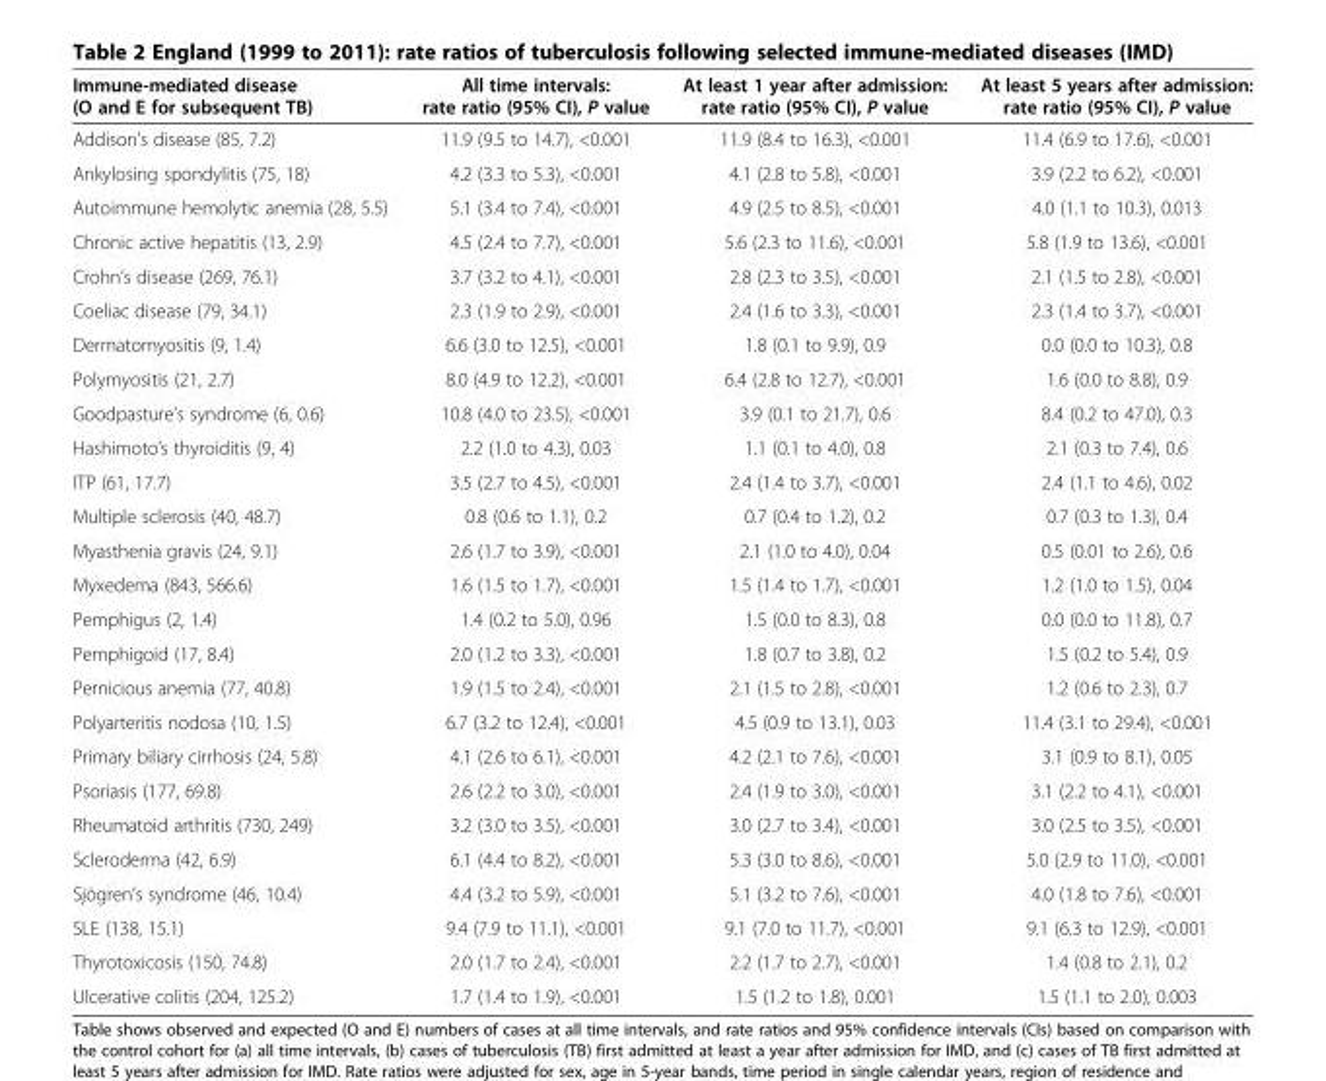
<table><thead><tr><td>Immune-mediated disease (O and E for subsequent TB)</td><td>All time intervals: rate ratio (95% CI), P value</td><td>At least 1 year after admission: rate ratio (95% CI), P value</td><td>At least 5 years after admission: rate ratio (95% CI), P value</td></tr></thead><tbody><tr><td>Addison’s disease (85, 7.2)</td><td>11.9 (9.5 to 14.7), &lt;0.001</td><td>11.9 (8.4 to 16.3), &lt;0.001</td><td>11.4 (6.9 to 17.6), &lt;0.001</td></tr><tr><td>Ankylosing spondylitis (75, 18)</td><td>4.2 (3.3 to 5.3), &lt;0.001</td><td>4.1 (2.8 to 5.8), &lt;0.001</td><td>3.9 (2.2 to 6.2), &lt;0.001</td></tr><tr><td>Autoimmune hemolytic anemia (28, 5.5)</td><td>5.1 (3.4 to 7.4), &lt;0.001</td><td>4.9 (2.5 to 8.5), &lt;0.001</td><td>4.0 (1.1 to 10.3), 0.013</td></tr><tr><td>Chronic active hepatitis (13, 2.9)</td><td>4.5 (2.4 to 7.7), &lt;0.001</td><td>5.6 (2.3 to 11.6), &lt;0.001</td><td>5.8 (1.9 to 13.6), &lt;0.001</td></tr><tr><td>Crohn’s disease (269, 76.1)</td><td>3.7 (3.2 to 4.1), &lt;0.001</td><td>2.8 (2.3 to 3.5), &lt;0.001</td><td>2.1 (1.5 to 2.8), &lt;0.001</td></tr><tr><td>Coeliac disease (79, 34.1)</td><td>2.3 (1.9 to 2.9), &lt;0.001</td><td>2.4 (1.6 to 3.3), &lt;0.001</td><td>2.3 (1.4 to 3.7), &lt;0.001</td></tr><tr><td>Dermatomyositis (9, 1.4)</td><td>6.6 (3.0 to 12.5), &lt;0.001</td><td>1.8 (0.1 to 9.9), 0.9</td><td>0.0 (0.0 to 10.3), 0.8</td></tr><tr><td>Polymyositis (21, 2.7)</td><td>8.0 (4.9 to 12.2), &lt;0.001</td><td>6.4 (2.8 to 12.7), &lt;0.001</td><td>1.6 (0.0 to 8.8), 0.9</td></tr><tr><td>Goodpasture’s syndrome (6, 0.6)</td><td>10.8 (4.0 to 23.5), &lt;0.001</td><td>3.9 (0.1 to 21.7), 0.6</td><td>8.4 (0.2 to 47.0), 0.3</td></tr><tr><td>Hashimoto’s thyroiditis (9, 4)</td><td>2.2 (1.0 to 4.3), 0.03</td><td>1.1 (0.1 to 4.0), 0.8</td><td>2.1 (0.3 to 7.4), 0.6</td></tr><tr><td>ITP (61, 17.7)</td><td>3.5 (2.7 to 4.5), &lt;0.001</td><td>2.4 (1.4 to 3.7), &lt;0.001</td><td>2.4 (1.1 to 4.6), 0.02</td></tr><tr><td>Multiple sclerosis (40, 48.7)</td><td>0.8 (0.6 to 1.1), 0.2</td><td>0.7 (0.4 to 1.2), 0.2</td><td>0.7 (0.3 to 1.3), 0.4</td></tr><tr><td>Myasthenia gravis (24, 9.1)</td><td>2.6 (1.7 to 3.9), &lt;0.001</td><td>2.1 (1.0 to 4.0), 0.04</td><td>0.5 (0.01 to 2.6), 0.6</td></tr><tr><td>Myxedema (843, 566.6)</td><td>1.6 (1.5 to 1.7), &lt;0.001</td><td>1.5 (1.4 to 1.7), &lt;0.001</td><td>1.2 (1.0 to 1.5), 0.04</td></tr><tr><td>Pemphigus (2, 1.4)</td><td>1.4 (0.2 to 5.0), 0.96</td><td>1.5 (0.0 to 8.3), 0.8</td><td>0.0 (0.0 to 11.8), 0.7</td></tr><tr><td>Pemphigoid (17, 8.4)</td><td>2.0 (1.2 to 3.3), &lt;0.001</td><td>1.8 (0.7 to 3.8), 0.2</td><td>1.5 (0.2 to 5.4), 0.9</td></tr><tr><td>Pernicious anemia (77, 40.8)</td><td>1.9 (1.5 to 2.4), &lt;0.001</td><td>2.1 (1.5 to 2.8), &lt;0.001</td><td>1.2 (0.6 to 2.3), 0.7</td></tr><tr><td>Polyarteritis nodosa (10, 1.5)</td><td>6.7 (3.2 to 12.4), &lt;0.001</td><td>4.5 (0.9 to 13.1), 0.03</td><td>11.4 (3.1 to 29.4), &lt;0.001</td></tr><tr><td>Primary biliary cirrhosis (24, 5.8)</td><td>4.1 (2.6 to 6.1), &lt;0.001</td><td>4.2 (2.1 to 7.6), &lt;0.001</td><td>3.1 (0.9 to 8.1), 0.05</td></tr><tr><td>Psoriasis (177, 69.8)</td><td>2.6 (2.2 to 3.0), &lt;0.001</td><td>2.4 (1.9 to 3.0), &lt;0.001</td><td>3.1 (2.2 to 4.1), &lt;0.001</td></tr><tr><td>Rheumatoid arthritis (730, 249)</td><td>3.2 (3.0 to 3.5), &lt;0.001</td><td>3.0 (2.7 to 3.4), &lt;0.001</td><td>3.0 (2.5 to 3.5), &lt;0.001</td></tr><tr><td>Scleroderma (42, 6.9)</td><td>6.1 (4.4 to 8.2), &lt;0.001</td><td>5.3 (3.0 to 8.6), &lt;0.001</td><td>5.0 (2.9 to 11.0), &lt;0.001</td></tr><tr><td>Sjögren’s syndrome (46, 10.4)</td><td>4.4 (3.2 to 5.9), &lt;0.001</td><td>5.1 (3.2 to 7.6), &lt;0.001</td><td>4.0 (1.8 to 7.6), &lt;0.001</td></tr><tr><td>SLE (138, 15.1)</td><td>9.4 (7.9 to 11.1), &lt;0.001</td><td>9.1 (7.0 to 11.7), &lt;0.001</td><td>9.1 (6.3 to 12.9), &lt;0.001</td></tr><tr><td>Thyrotoxicosis (150, 74.8)</td><td>2.0 (1.7 to 2.4), &lt;0.001</td><td>2.2 (1.7 to 2.7), &lt;0.001</td><td>1.4 (0.8 to 2.1), 0.2</td></tr><tr><td>Ulcerative colitis (204, 125.2)</td><td>1.7 (1.4 to 1.9), &lt;0.001</td><td>1.5 (1.2 to 1.8), 0.001</td><td>1.5 (1.1 to 2.0), 0.003</td></tr></tbody></table>